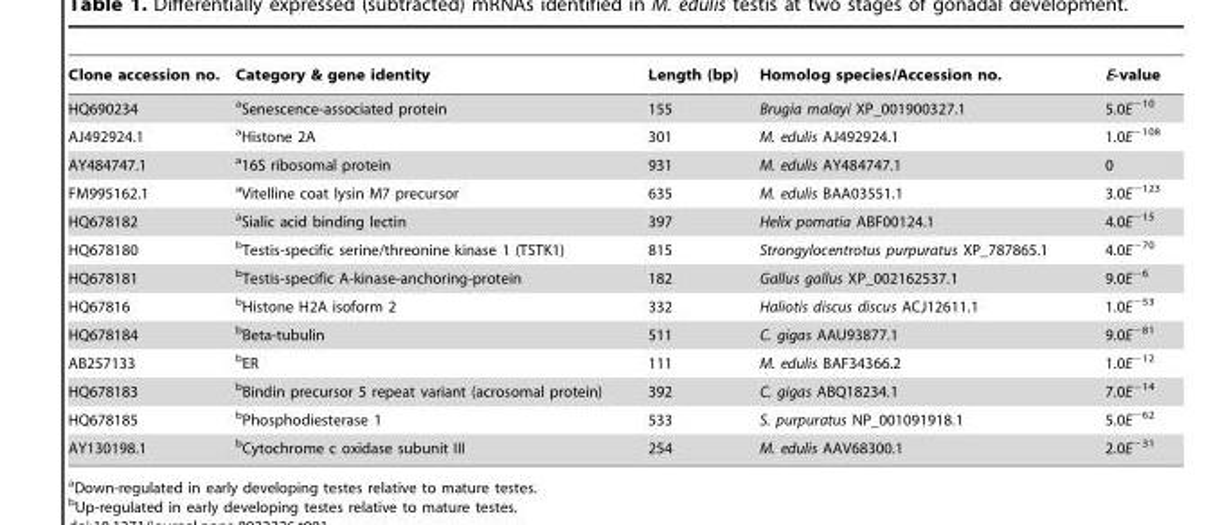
<table><thead><tr><td>Clone accession no.</td><td>Category &amp; gene identity</td><td>Length (bp)</td><td>Homolog species/Accession no.</td><td>E-value</td></tr></thead><tbody><tr><td>HQ690234</td><td>aSenescence-associated protein</td><td>155</td><td>Brugia malayi XP_001900327.1</td><td>5.0E<sup>−10</sup></td></tr><tr><td>AJ492924.1</td><td>aHistone 2A</td><td>301</td><td>M. edulis AJ492924.1</td><td>1.0E<sup>−108</sup></td></tr><tr><td>AY484747.1</td><td>a16S ribosomal protein</td><td>931</td><td>M. edulis AY484747.1</td><td>0</td></tr><tr><td>FM995162.1</td><td>aVitelline coat lysin M7 precursor</td><td>635</td><td>M. edulis BAA03551.1</td><td>3.0E<sup>−123</sup></td></tr><tr><td>HQ678182</td><td>aSialic acid binding lectin</td><td>397</td><td>Helix pomatia ABF00124.1</td><td>4.0E<sup>−15</sup></td></tr><tr><td>HQ678180</td><td>bTestis-specific serine/threonine kinase 1 (TSTK1)</td><td>815</td><td>Strongylocentrotus purpuratus XP_787865.1</td><td>4.0E<sup>−70</sup></td></tr><tr><td>HQ678181</td><td>bTestis-specific A-kinase-anchoring-protein</td><td>182</td><td>Gallus gallus XP_002162537.1</td><td>9.0E<sup>−6</sup></td></tr><tr><td>HQ67816</td><td>bHistone H2A isoform 2</td><td>332</td><td>Haliotis discus discus ACJ12611.1</td><td>1.0E<sup>−53</sup></td></tr><tr><td>HQ678184</td><td>bBeta-tubulin</td><td>511</td><td>C. gigas AAU93877.1</td><td>9.0E<sup>−81</sup></td></tr><tr><td>AB257133</td><td>bER</td><td>111</td><td>M. edulis BAF34366.2</td><td>1.0E<sup>−12</sup></td></tr><tr><td>HQ678183</td><td>bBindin precursor 5 repeat variant (acrosomal protein)</td><td>392</td><td>C. gigas ABQ18234.1</td><td>7.0E<sup>−14</sup></td></tr><tr><td>HQ678185</td><td>bPhosphodiesterase 1</td><td>533</td><td>S. purpuratus NP_001091918.1</td><td>5.0E<sup>−62</sup></td></tr><tr><td>AY130198.1</td><td>bCytochrome c oxidase subunit III</td><td>254</td><td>M. edulis AAV68300.1</td><td>2.0E<sup>−31</sup></td></tr></tbody></table>